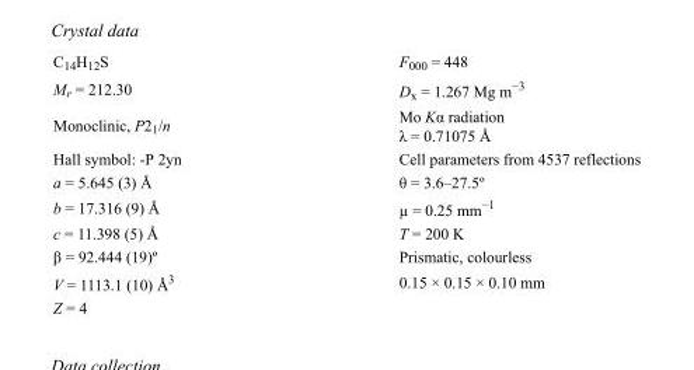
<table><tbody><tr><td>C<sub>14</sub>H<sub>12</sub>S</td><td>F000 = 448</td></tr><tr><td>M<sub>r</sub> = 212.30</td><td>D<sub>x</sub> = 1.267 Mg m<sup>−3</sup></td></tr><tr><td>Monoclinic, P2<sub>1</sub>/n</td><td>Mo Kα radiation λ = 0.71075 Å</td></tr><tr><td>Hall symbol: -P 2yn</td><td>Cell parameters from 4537 reflections</td></tr><tr><td>a = 5.645 (3) Å</td><td>θ = 3.6–27.5º</td></tr><tr><td>b = 17.316 (9) Å</td><td>µ = 0.25 mm<sup>−1</sup></td></tr><tr><td>c = 11.398 (5) Å</td><td>T = 200 K</td></tr><tr><td>β = 92.444 (19)º</td><td>Prismatic, colourless</td></tr><tr><td>V = 1113.1 (10) Å<sup>3</sup></td><td>0.15 × 0.15 × 0.10 mm</td></tr><tr><td>Z = 4</td><td></td></tr></tbody></table>